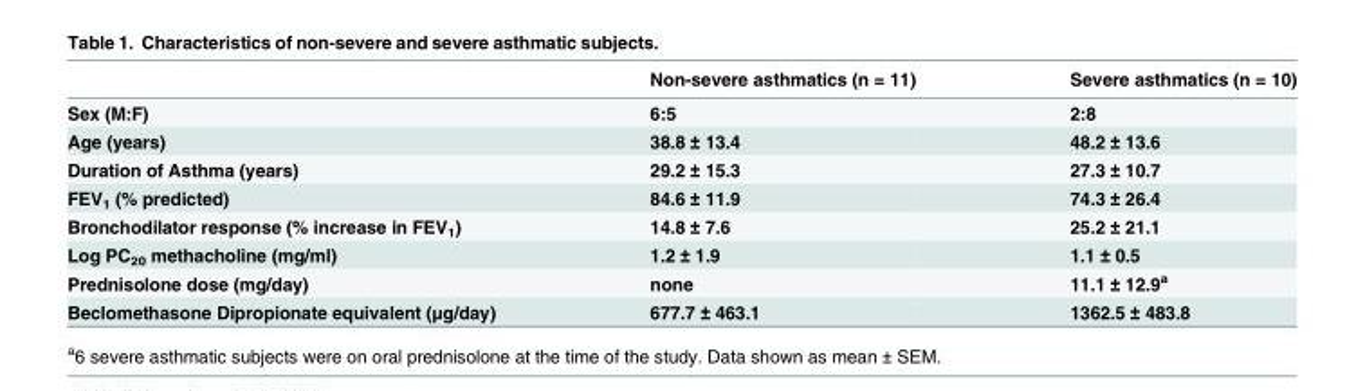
<table><thead><tr><td></td><td>Non-severe asthmatics (n = 11)</td><td>Severe asthmatics (n = 10)</td></tr></thead><tbody><tr><td>Sex (M:F)</td><td>6:5</td><td>2:8</td></tr><tr><td>Age (years)</td><td>38.8 ± 13.4</td><td>48.2 ± 13.6</td></tr><tr><td>Duration of Asthma (years)</td><td>29.2 ± 15.3</td><td>27.3 ± 10.7</td></tr><tr><td>FEV<sub>1</sub> (% predicted)</td><td>84.6 ± 11.9</td><td>74.3 ± 26.4</td></tr><tr><td>Bronchodilator response (% increase in FEV<sub>1</sub>)</td><td>14.8 ± 7.6</td><td>25.2 ± 21.1</td></tr><tr><td>Log PC<sub>20</sub> methacholine (mg/ml)</td><td>1.2 ± 1.9</td><td>1.1 ± 0.5</td></tr><tr><td>Prednisolone dose (mg/day)</td><td>none</td><td>11.1 ± 12.9<sup>a</sup></td></tr><tr><td>Beclomethasone Dipropionate equivalent (μg/day)</td><td>677.7 ± 463.1</td><td>1362.5 ± 483.8</td></tr></tbody></table>